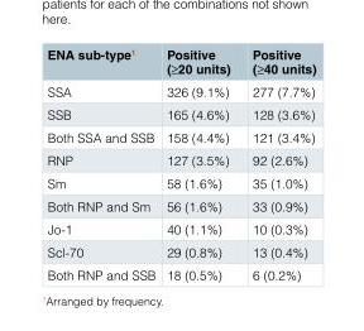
<table><thead><tr><td>ENA sub-type<sup>1</sup></td><td>Positive (≥20 units)</td><td>Positive (≥40 units)</td></tr></thead><tbody><tr><td>SSA</td><td>326 (9.1%)</td><td>277 (7.7%)</td></tr><tr><td>SSB</td><td>165 (4.6%)</td><td>128 (3.6%)</td></tr><tr><td>Both SSA and SSB</td><td>158 (4.4%)</td><td>121 (3.4%)</td></tr><tr><td>RNP</td><td>127 (3.5%)</td><td>92 (2.6%)</td></tr><tr><td>Sm</td><td>58 (1.6%)</td><td>35 (1.0%)</td></tr><tr><td>Both RNP and Sm</td><td>56 (1.6%)</td><td>33 (0.9%)</td></tr><tr><td>Jo-1</td><td>40 (1.1%)</td><td>10 (0.3%)</td></tr><tr><td>Scl-70</td><td>29 (0.8%)</td><td>13 (0.4%)</td></tr><tr><td>Both RNP and SSB</td><td>18 (0.5%)</td><td>6 (0.2%)</td></tr></tbody></table>